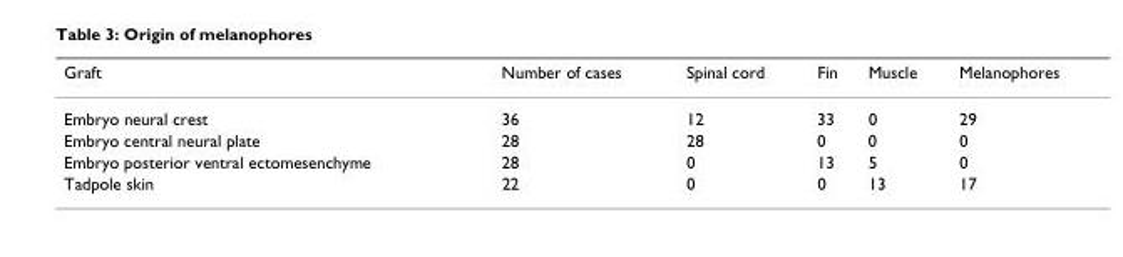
<table><thead><tr><td>Graft</td><td>Number of cases</td><td>Spinal cord</td><td>Fin</td><td>Muscle</td><td>Melanophores</td></tr></thead><tbody><tr><td>Embryo neural crest</td><td>36</td><td>12</td><td>33</td><td>0</td><td>29</td></tr><tr><td>Embryo central neural plate</td><td>28</td><td>28</td><td>0</td><td>0</td><td>0</td></tr><tr><td>Embryo posterior ventral ectomesenchyme</td><td>28</td><td>0</td><td>13</td><td>5</td><td>0</td></tr><tr><td>Tadpole skin</td><td>22</td><td>0</td><td>0</td><td>13</td><td>17</td></tr></tbody></table>